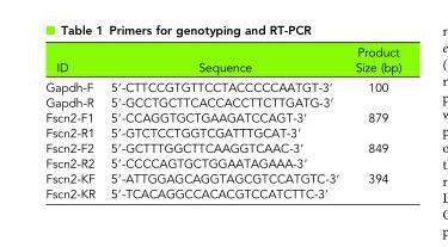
<table><thead><tr><td>ID</td><td>Sequence</td><td>Product Size (bp)</td></tr></thead><tbody><tr><td>Gapdh-F</td><td>5′-CTTCCGTGTTCCTACCCCCAATGT-3′</td><td>100</td></tr><tr><td>Gapdh-R</td><td>5′-GCCTGCTTCACCACCTTCTTGATG-3′</td><td></td></tr><tr><td>Fscn2-F1</td><td>5′-CCAGGTGCTGAAGATCCAGT-3′</td><td>879</td></tr><tr><td>Fscn2-R1</td><td>5′-GTCTCCTGGTCGATTTGCAT-3′</td><td></td></tr><tr><td>Fscn2-F2</td><td>5′-GCTTTGGCTTCAAGGTCAAC-3′</td><td>849</td></tr><tr><td>Fscn2-R2</td><td>5′-CCCCAGTGCTGGAATAGAAA-3′</td><td></td></tr><tr><td>Fscn2-KF</td><td>5′-ATTGGAGCAGGTAGCGTCCATGTC-3′</td><td>394</td></tr><tr><td>Fscn2-KR</td><td>5′-TCACAGGCCACACGTCCATCTTC-3′</td><td></td></tr></tbody></table>